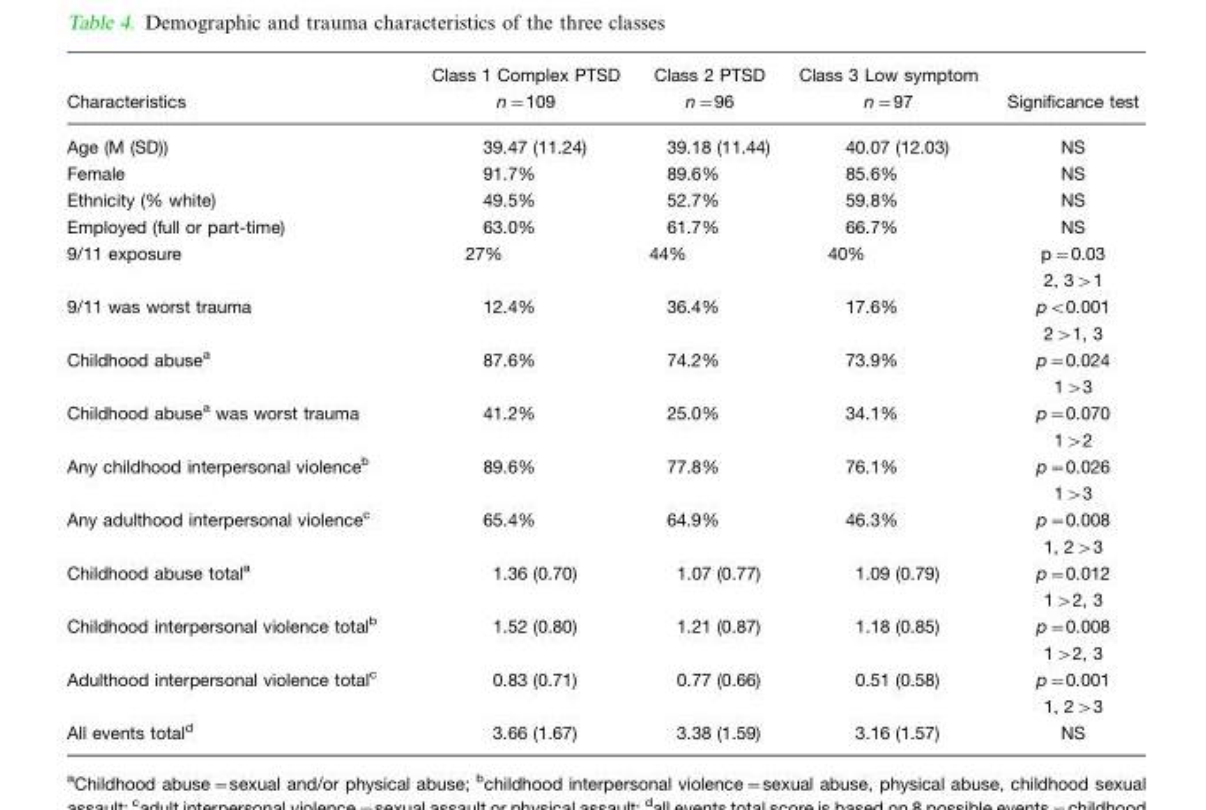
<table><thead><tr><td>Characteristics</td><td>Class 1 Complex PTSD n=109</td><td>Class 2 PTSD n=96</td><td>Class 3 Low symptom n=97</td><td>Significance test</td></tr></thead><tbody><tr><td>Age (M (SD))</td><td>39.47 (11.24)</td><td>39.18 (11.44)</td><td>40.07 (12.03)</td><td>NS</td></tr><tr><td>Female</td><td>91.7%</td><td>89.6%</td><td>85.6%</td><td>NS</td></tr><tr><td>Ethnicity (% white)</td><td>49.5%</td><td>52.7%</td><td>59.8%</td><td>NS</td></tr><tr><td>Employed (full or part-time)</td><td>63.0%</td><td>61.7%</td><td>66.7%</td><td>NS</td></tr><tr><td>9/11 exposure</td><td>27%</td><td>44%</td><td>40%</td><td>p=0.03 2, 3&gt;1</td></tr><tr><td>9/11 was worst trauma</td><td>12.4%</td><td>36.4%</td><td>17.6%</td><td>p&lt;0.001 2&gt;1, 3</td></tr><tr><td>Childhood abuse<sup>a</sup></td><td>87.6%</td><td>74.2%</td><td>73.9%</td><td>p=0.024 1&gt;3</td></tr><tr><td>Childhood abuse<sup>a</sup> was worst trauma</td><td>41.2%</td><td>25.0%</td><td>34.1%</td><td>p=0.070 1&gt;2</td></tr><tr><td>Any childhood interpersonal violence<sup>b</sup></td><td>89.6%</td><td>77.8%</td><td>76.1%</td><td>p=0.026 1&gt;3</td></tr><tr><td>Any adulthood interpersonal violence<sup>c</sup></td><td>65.4%</td><td>64.9%</td><td>46.3%</td><td>p=0.008 1, 2&gt;3</td></tr><tr><td>Childhood abuse total<sup>a</sup></td><td>1.36 (0.70)</td><td>1.07 (0.77)</td><td>1.09 (0.79)</td><td>p=0.012 1&gt;2, 3</td></tr><tr><td>Childhood interpersonal violence total<sup>b</sup></td><td>1.52 (0.80)</td><td>1.21 (0.87)</td><td>1.18 (0.85)</td><td>p=0.008 1&gt;2, 3</td></tr><tr><td>Adulthood interpersonal violence total<sup>c</sup></td><td>0.83 (0.71)</td><td>0.77 (0.66)</td><td>0.51 (0.58)</td><td>p=0.001 1, 2&gt;3</td></tr><tr><td>All events total<sup>d</sup></td><td>3.66 (1.67)</td><td>3.38 (1.59)</td><td>3.16 (1.57)</td><td>NS</td></tr></tbody></table>